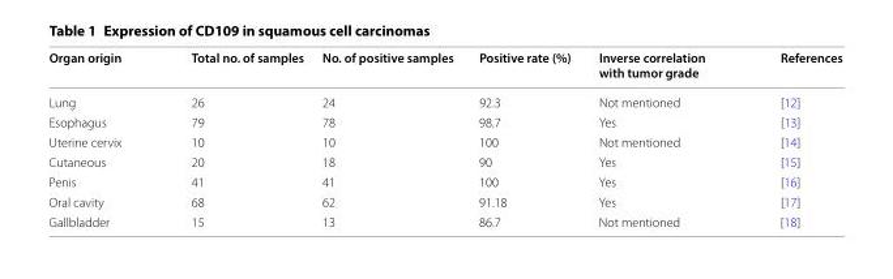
<table><thead><tr><td>Organ origin</td><td>Total no. of samples</td><td>No. of positive samples</td><td>Positive rate (%)</td><td>Inverse correlation with tumor grade</td><td>References</td></tr></thead><tbody><tr><td>Lung</td><td>26</td><td>24</td><td>92.3</td><td>Not mentioned</td><td>[12]</td></tr><tr><td>Esophagus</td><td>79</td><td>78</td><td>98.7</td><td>Yes</td><td>[13]</td></tr><tr><td>Uterine cervix</td><td>10</td><td>10</td><td>100</td><td>Not mentioned</td><td>[14]</td></tr><tr><td>Cutaneous</td><td>20</td><td>18</td><td>90</td><td>Yes</td><td>[15]</td></tr><tr><td>Penis</td><td>41</td><td>41</td><td>100</td><td>Yes</td><td>[16]</td></tr><tr><td>Oral cavity</td><td>68</td><td>62</td><td>91.18</td><td>Yes</td><td>[17]</td></tr><tr><td>Gallbladder</td><td>15</td><td>13</td><td>86.7</td><td>Not mentioned</td><td>[18]</td></tr></tbody></table>